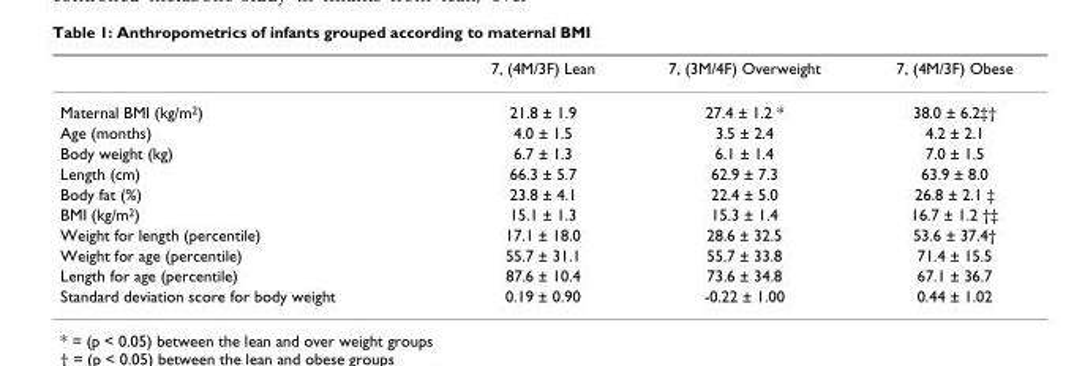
<table><thead><tr><td></td><td>7, (4M/3F) Lean</td><td>7, (3M/4F) Overweight</td><td>7, (4M/3F) Obese</td></tr></thead><tbody><tr><td>Maternal BMI (kg/m<sup>2</sup>)</td><td>21.8 ± 1.9</td><td>27.4 ± 1.2 *</td><td>38.0 ± 6.2‡†</td></tr><tr><td>Age (months)</td><td>4.0 ± 1.5</td><td>3.5 ± 2.4</td><td>4.2 ± 2.1</td></tr><tr><td>Body weight (kg)</td><td>6.7 ± 1.3</td><td>6.1 ± 1.4</td><td>7.0 ± 1.5</td></tr><tr><td>Length (cm)</td><td>66.3 ± 5.7</td><td>62.9 ± 7.3</td><td>63.9 ± 8.0</td></tr><tr><td>Body fat (%)</td><td>23.8 ± 4.1</td><td>22.4 ± 5.0</td><td>26.8 ± 2.1 ‡</td></tr><tr><td>BMI (kg/m<sup>2</sup>)</td><td>15.1 ± 1.3</td><td>15.3 ± 1.4</td><td>16.7 ± 1.2 †‡</td></tr><tr><td>Weight for length (percentile)</td><td>17.1 ± 18.0</td><td>28.6 ± 32.5</td><td>53.6 ± 37.4†</td></tr><tr><td>Weight for age (percentile)</td><td>55.7 ± 31.1</td><td>55.7 ± 33.8</td><td>71.4 ± 15.5</td></tr><tr><td>Length for age (percentile)</td><td>87.6 ± 10.4</td><td>73.6 ± 34.8</td><td>67.1 ± 36.7</td></tr><tr><td>Standard deviation score for body weight</td><td>0.19 ± 0.90</td><td>-0.22 ± 1.00</td><td>0.44 ± 1.02</td></tr></tbody></table>